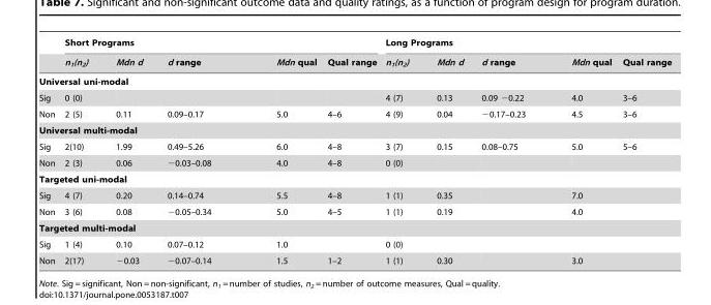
<table><thead><tr><td rowspan="2"></td><td colspan="5">Short Programs</td><td colspan="5">Long Programs</td></tr><tr><td>n<sub>1</sub>(n<sub>2</sub>)</td><td>Mdn d</td><td>d range</td><td>Mdn qual</td><td>Qual range</td><td>n<sub>1</sub>(n<sub>2</sub>)</td><td>Mdn d</td><td>d range</td><td>Mdn qual</td><td>Qual range</td></tr></thead><tbody><tr><td colspan="11">Universal uni-modal</td></tr><tr><td>Sig</td><td>0 (0)</td><td></td><td></td><td></td><td></td><td>4 (7)</td><td>0.13</td><td>0.09 −0.22</td><td>4.0</td><td>3–6</td></tr><tr><td>Non</td><td>2 (5)</td><td>0.11</td><td>0.09–0.17</td><td>5.0</td><td>4–6</td><td>4 (9)</td><td>0.04</td><td>−0.17–0.23</td><td>4.5</td><td>3–6</td></tr><tr><td colspan="11">Universal multi-modal</td></tr><tr><td>Sig</td><td>2(10)</td><td>1.99</td><td>0.49–5.26</td><td>6.0</td><td>4–8</td><td>3 (7)</td><td>0.15</td><td>0.08–0.75</td><td>5.0</td><td>5–6</td></tr><tr><td>Non</td><td>2 (3)</td><td>0.06</td><td>−0.03–0.08</td><td>4.0</td><td>4–8</td><td>0 (0)</td><td></td><td></td><td></td><td></td></tr><tr><td colspan="11">Targeted uni-modal</td></tr><tr><td>Sig</td><td>4 (7)</td><td>0.20</td><td>0.14–0.74</td><td>5.5</td><td>4–8</td><td>1 (1)</td><td>0.35</td><td></td><td>7.0</td><td></td></tr><tr><td>Non</td><td>3 (6)</td><td>0.08</td><td>−0.05–0.34</td><td>5.0</td><td>4–5</td><td>1 (1)</td><td>0.19</td><td></td><td>4.0</td><td></td></tr><tr><td colspan="11">Targeted multi-modal</td></tr><tr><td>Sig</td><td>1 (4)</td><td>0.10</td><td>0.07–0.12</td><td>1.0</td><td></td><td>0 (0)</td><td></td><td></td><td></td><td></td></tr><tr><td>Non</td><td>2(17)</td><td>−0.03</td><td>−0.07–0.14</td><td>1.5</td><td>1–2</td><td>1 (1)</td><td>0.30</td><td></td><td>3.0</td><td></td></tr></tbody></table>